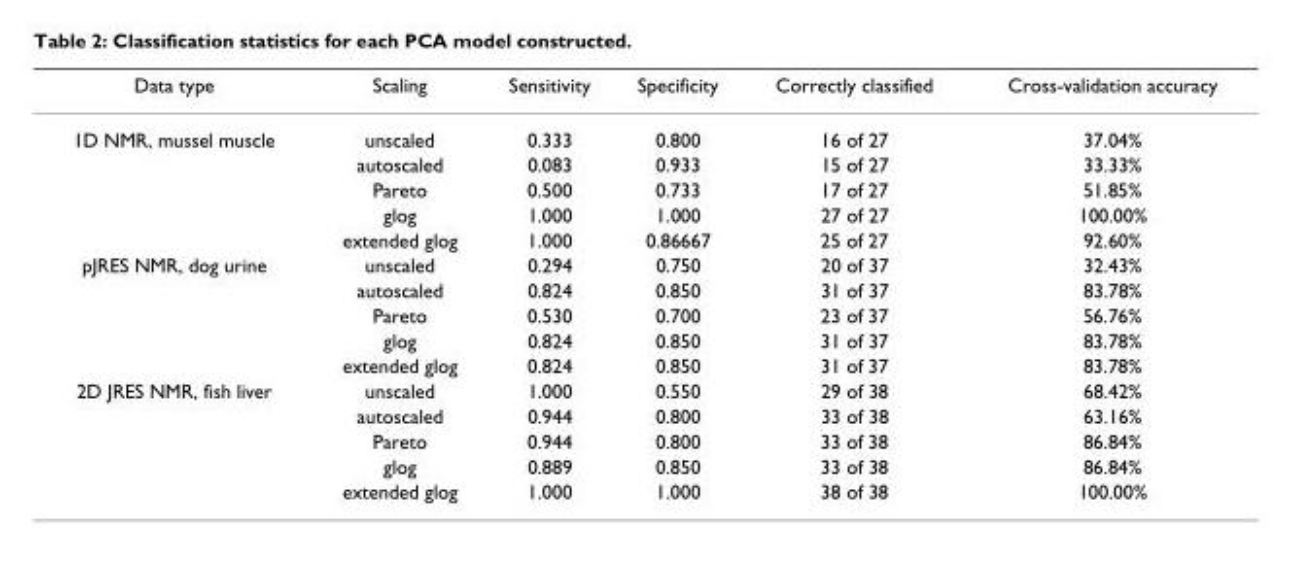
<table><thead><tr><td>Data type</td><td>Scaling</td><td>Sensitivity</td><td>Specificity</td><td>Correctly classified</td><td>Cross-validation accuracy</td></tr></thead><tbody><tr><td rowspan="5">1D NMR, mussel muscle</td><td>unscaled</td><td>0.333</td><td>0.800</td><td>16 of 27</td><td>37.04%</td></tr><tr><td>autoscaled</td><td>0.083</td><td>0.933</td><td>15 of 27</td><td>33.33%</td></tr><tr><td>Pareto</td><td>0.500</td><td>0.733</td><td>17 of 27</td><td>51.85%</td></tr><tr><td>glog</td><td>1.000</td><td>1.000</td><td>27 of 27</td><td>100.00%</td></tr><tr><td>extended glog</td><td>1.000</td><td>0.86667</td><td>25 of 27</td><td>92.60%</td></tr><tr><td rowspan="5">pJRES NMR, dog urine</td><td>unscaled</td><td>0.294</td><td>0.750</td><td>20 of 37</td><td>32.43%</td></tr><tr><td>autoscaled</td><td>0.824</td><td>0.850</td><td>31 of 37</td><td>83.78%</td></tr><tr><td>Pareto</td><td>0.530</td><td>0.700</td><td>23 of 37</td><td>56.76%</td></tr><tr><td>glog</td><td>0.824</td><td>0.850</td><td>31 of 37</td><td>83.78%</td></tr><tr><td>extended glog</td><td>0.824</td><td>0.850</td><td>31 of 37</td><td>83.78%</td></tr><tr><td rowspan="5">2D JRES NMR, fish liver</td><td>unscaled</td><td>1.000</td><td>0.550</td><td>29 of 38</td><td>68.42%</td></tr><tr><td>autoscaled</td><td>0.944</td><td>0.800</td><td>33 of 38</td><td>63.16%</td></tr><tr><td>Pareto</td><td>0.944</td><td>0.800</td><td>33 of 38</td><td>86.84%</td></tr><tr><td>glog</td><td>0.889</td><td>0.850</td><td>33 of 38</td><td>86.84%</td></tr><tr><td>extended glog</td><td>1.000</td><td>1.000</td><td>38 of 38</td><td>100.00%</td></tr></tbody></table>